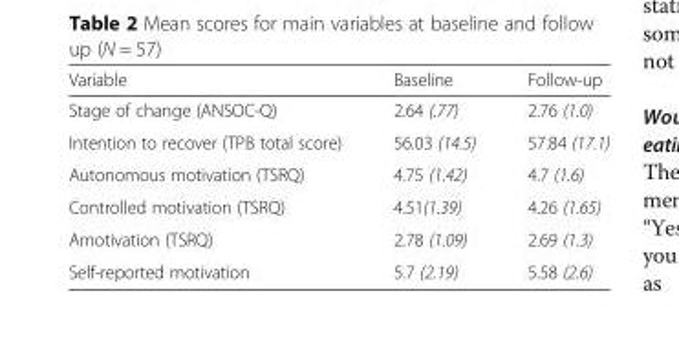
<table><thead><tr><td>Variable</td><td>Baseline</td><td>Follow-up</td></tr></thead><tbody><tr><td>Stage of change (ANSOC-Q)</td><td>2.64 (.77)</td><td>2.76 (1.0)</td></tr><tr><td>Intention to recover (TPB total score)</td><td>56.03 (14.5)</td><td>57.84 (17.1)</td></tr><tr><td>Autonomous motivation (TSRQ)</td><td>4.75 (1.42)</td><td>4.7 (1.6)</td></tr><tr><td>Controlled motivation (TSRQ)</td><td>4.51(1.39)</td><td>4.26 (1.65)</td></tr><tr><td>Amotivation (TSRQ)</td><td>2.78 (1.09)</td><td>2.69 (1.3)</td></tr><tr><td>Self-reported motivation</td><td>5.7 (2.19)</td><td>5.58 (2.6)</td></tr></tbody></table>